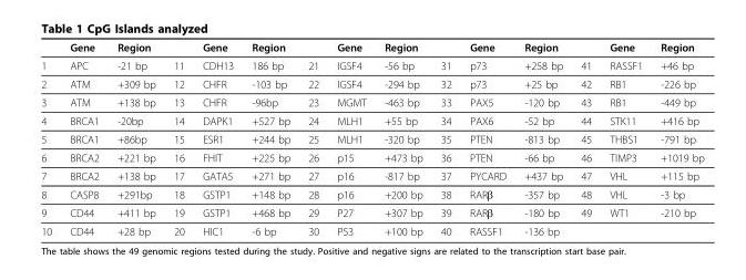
<table><thead><tr><td></td><td>Gene</td><td>Region</td><td></td><td>Gene</td><td>Region</td><td></td><td>Gene</td><td>Region</td><td></td><td>Gene</td><td>Region</td><td></td><td>Gene</td><td>Region</td></tr></thead><tbody><tr><td>1</td><td>APC</td><td>-21 bp</td><td>11</td><td>CDH13</td><td>186 bp</td><td>21</td><td>IGSF4</td><td>-56 bp</td><td>31</td><td>p73</td><td>+258 bp</td><td>41</td><td>RASSF1</td><td>+46 bp</td></tr><tr><td>2</td><td>ATM</td><td>+309 bp</td><td>12</td><td>CHFR</td><td>-103 bp</td><td>22</td><td>IGSF4</td><td>-294 bp</td><td>32</td><td>p73</td><td>+25 bp</td><td>42</td><td>RB1</td><td>-226 bp</td></tr><tr><td>3</td><td>ATM</td><td>+138 bp</td><td>13</td><td>CHFR</td><td>-96bp</td><td>23</td><td>MGMT</td><td>-463 bp</td><td>33</td><td>PAX5</td><td>-120 bp</td><td>43</td><td>RB1</td><td>-449 bp</td></tr><tr><td>4</td><td>BRCA1</td><td>-20bp</td><td>14</td><td>DAPK1</td><td>+527 bp</td><td>24</td><td>MLH1</td><td>+55 bp</td><td>34</td><td>PAX6</td><td>-52 bp</td><td>44</td><td>STK11</td><td>+416 bp</td></tr><tr><td>5</td><td>BRCA1</td><td>+86bp</td><td>15</td><td>ESR1</td><td>+244 bp</td><td>25</td><td>MLH1</td><td>-320 bp</td><td>35</td><td>PTEN</td><td>-813 bp</td><td>45</td><td>THBS1</td><td>-791 bp</td></tr><tr><td>6</td><td>BRCA2</td><td>+221 bp</td><td>16</td><td>FHIT</td><td>+225 bp</td><td>26</td><td>p15</td><td>+473 bp</td><td>36</td><td>PTEN</td><td>-66 bp</td><td>46</td><td>TIMP3</td><td>+1019 bp</td></tr><tr><td>7</td><td>BRCA2</td><td>+138 bp</td><td>17</td><td>GATA5</td><td>+271 bp</td><td>27</td><td>p16</td><td>-817 bp</td><td>37</td><td>PYCARD</td><td>+437 bp</td><td>47</td><td>VHL</td><td>+115 bp</td></tr><tr><td>8</td><td>CASP8</td><td>+291bp</td><td>18</td><td>GSTP1</td><td>+148 bp</td><td>28</td><td>p16</td><td>+200 bp</td><td>38</td><td>RARβ</td><td>-357 bp</td><td>48</td><td>VHL</td><td>-3 bp</td></tr><tr><td>9</td><td>CD44</td><td>+411 bp</td><td>19</td><td>GSTP1</td><td>+468 bp</td><td>29</td><td>P27</td><td>+307 bp</td><td>39</td><td>RARβ</td><td>-180 bp</td><td>49</td><td>WT1</td><td>-210 bp</td></tr><tr><td>10</td><td>CD44</td><td>+28 bp</td><td>20</td><td>HIC1</td><td>-6 bp</td><td>30</td><td>P53</td><td>+100 bp</td><td>40</td><td>RASSF1</td><td>-136 bp</td><td></td><td></td><td></td></tr></tbody></table>